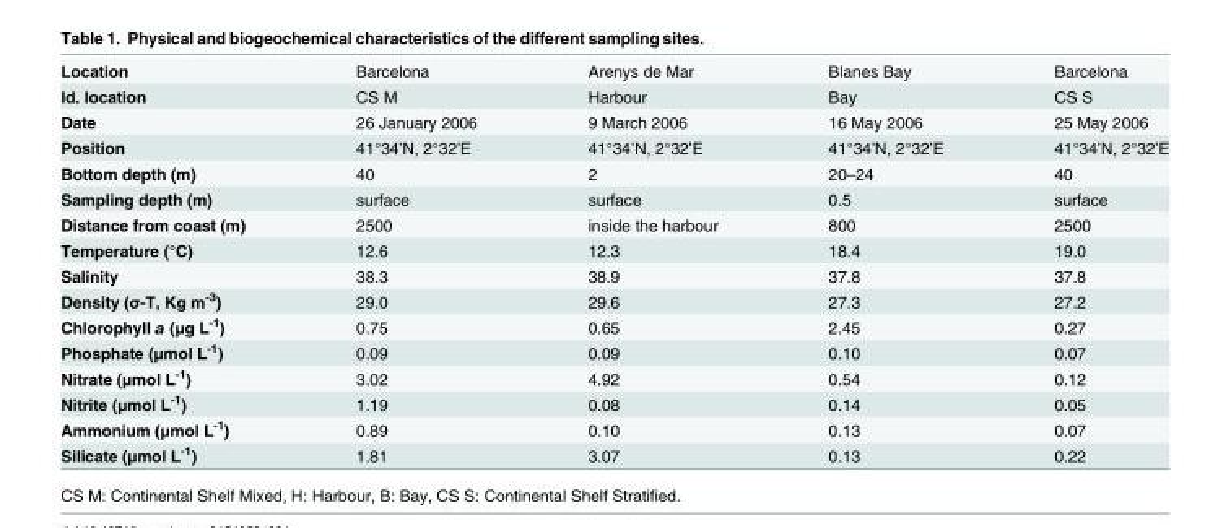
<table><tbody><tr><td>Location</td><td>Barcelona</td><td>Arenys de Mar</td><td>Blanes Bay</td><td>Barcelona</td></tr><tr><td>Id. location</td><td>CS M</td><td>Harbour</td><td>Bay</td><td>CS S</td></tr><tr><td>Date</td><td>26 January 2006</td><td>9 March 2006</td><td>16 May 2006</td><td>25 May 2006</td></tr><tr><td>Position</td><td>41°34’N, 2°32’E</td><td>41°34’N, 2°32’E</td><td>41°34’N, 2°32’E</td><td>41°34’N, 2°32’E</td></tr><tr><td>Bottom depth (m)</td><td>40</td><td>2</td><td>20–24</td><td>40</td></tr><tr><td>Sampling depth (m)</td><td>surface</td><td>surface</td><td>0.5</td><td>surface</td></tr><tr><td>Distance from coast (m)</td><td>2500</td><td>inside the harbour</td><td>800</td><td>2500</td></tr><tr><td>Temperature (°C)</td><td>12.6</td><td>12.3</td><td>18.4</td><td>19.0</td></tr><tr><td>Salinity</td><td>38.3</td><td>38.9</td><td>37.8</td><td>37.8</td></tr><tr><td>Density (σ-T, Kg m<sup>-3</sup>)</td><td>29.0</td><td>29.6</td><td>27.3</td><td>27.2</td></tr><tr><td>Chlorophyll a (μg L<sup>-1</sup>)</td><td>0.75</td><td>0.65</td><td>2.45</td><td>0.27</td></tr><tr><td>Phosphate (μmol L<sup>-1</sup>)</td><td>0.09</td><td>0.09</td><td>0.10</td><td>0.07</td></tr><tr><td>Nitrate (μmol L<sup>-1</sup>)</td><td>3.02</td><td>4.92</td><td>0.54</td><td>0.12</td></tr><tr><td>Nitrite (μmol L<sup>-1</sup>)</td><td>1.19</td><td>0.08</td><td>0.14</td><td>0.05</td></tr><tr><td>Ammonium (μmol L<sup>-1</sup>)</td><td>0.89</td><td>0.10</td><td>0.13</td><td>0.07</td></tr><tr><td>Silicate (μmol L<sup>-1</sup>)</td><td>1.81</td><td>3.07</td><td>0.13</td><td>0.22</td></tr></tbody></table>